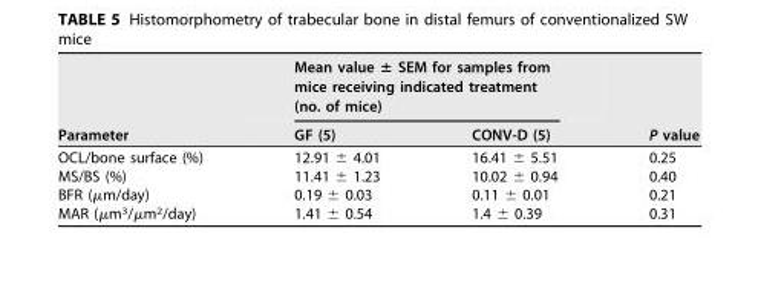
<table><thead><tr><td rowspan="2">Parameter</td><td colspan="2">Mean value ± SEM for samples from mice receiving indicated treatment (no. of mice)</td><td rowspan="2">P value</td></tr><tr><td>GF (5)</td><td>CONV-D (5)</td></tr></thead><tbody><tr><td>OCL/bone surface (%)</td><td>12.91 ± 4.01</td><td>16.41 ± 5.51</td><td>0.25</td></tr><tr><td>MS/BS (%)</td><td>11.41 ± 1.23</td><td>10.02 ± 0.94</td><td>0.40</td></tr><tr><td>BFR (μm/day)</td><td>0.19 ± 0.03</td><td>0.11 ± 0.01</td><td>0.21</td></tr><tr><td>MAR (μm<sup>3</sup>/μm<sup>2</sup>/day)</td><td>1.41 ± 0.54</td><td>1.4 ± 0.39</td><td>0.31</td></tr></tbody></table>